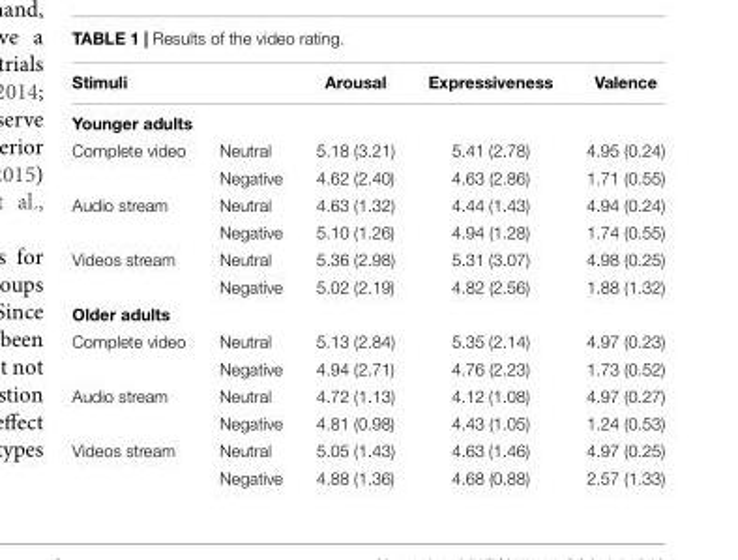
<table><thead><tr><td>Stimuli</td><td></td><td>Arousal</td><td>Expressiveness</td><td>Valence</td></tr></thead><tbody><tr><td colspan="5">Younger adults</td></tr><tr><td rowspan="2">Complete video</td><td>Neutral</td><td>5.18 (3.21)</td><td>5.41 (2.78)</td><td>4.95 (0.24)</td></tr><tr><td>Negative</td><td>4.62 (2.40)</td><td>4.63 (2.86)</td><td>1.71 (0.55)</td></tr><tr><td rowspan="2">Audio stream</td><td>Neutral</td><td>4.63 (1.32)</td><td>4.44 (1.43)</td><td>4.94 (0.24)</td></tr><tr><td>Negative</td><td>5.10 (1.26)</td><td>4.94 (1.28)</td><td>1.74 (0.55)</td></tr><tr><td rowspan="2">Videos stream</td><td>Neutral</td><td>5.36 (2.98)</td><td>5.31 (3.07)</td><td>4.98 (0.25)</td></tr><tr><td>Negative</td><td>5.02 (2.19)</td><td>4.82 (2.56)</td><td>1.88 (1.32)</td></tr><tr><td colspan="5">Older adults</td></tr><tr><td rowspan="2">Complete video</td><td>Neutral</td><td>5.13 (2.84)</td><td>5.35 (2.14)</td><td>4.97 (0.23)</td></tr><tr><td>Negative</td><td>4.94 (2.71)</td><td>4.76 (2.23)</td><td>1.73 (0.52)</td></tr><tr><td rowspan="2">Audio stream</td><td>Neutral</td><td>4.72 (1.13)</td><td>4.12 (1.08)</td><td>4.97 (0.27)</td></tr><tr><td>Negative</td><td>4.81 (0.98)</td><td>4.43 (1.05)</td><td>1.24 (0.53)</td></tr><tr><td rowspan="2">Videos stream</td><td>Neutral</td><td>5.05 (1.43)</td><td>4.63 (1.46)</td><td>4.97 (0.25)</td></tr><tr><td>Negative</td><td>4.88 (1.36)</td><td>4.68 (0.88)</td><td>2.57 (1.33)</td></tr></tbody></table>